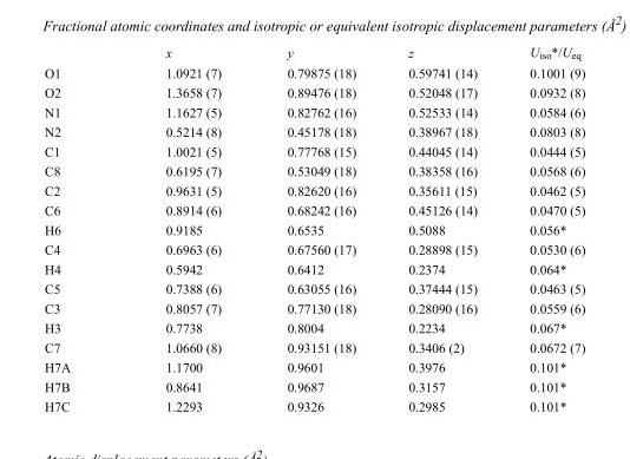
<table><thead><tr><td></td><td>x</td><td>y</td><td>z</td><td>U<sub>iso</sub>*/U<sub>eq</sub></td></tr></thead><tbody><tr><td>O1</td><td>1.0921 (7)</td><td>0.79875 (18)</td><td>0.59741 (14)</td><td>0.1001 (9)</td></tr><tr><td>O2</td><td>1.3658 (7)</td><td>0.89476 (18)</td><td>0.52048 (17)</td><td>0.0932 (8)</td></tr><tr><td>N1</td><td>1.1627 (5)</td><td>0.82762 (16)</td><td>0.52533 (14)</td><td>0.0584 (6)</td></tr><tr><td>N2</td><td>0.5214 (8)</td><td>0.45178 (18)</td><td>0.38967 (18)</td><td>0.0803 (8)</td></tr><tr><td>C1</td><td>1.0021 (5)</td><td>0.77768 (15)</td><td>0.44045 (14)</td><td>0.0444 (5)</td></tr><tr><td>C8</td><td>0.6195 (7)</td><td>0.53049 (18)</td><td>0.38358 (16)</td><td>0.0568 (6)</td></tr><tr><td>C2</td><td>0.9631 (5)</td><td>0.82620 (16)</td><td>0.35611 (15)</td><td>0.0462 (5)</td></tr><tr><td>C6</td><td>0.8914 (6)</td><td>0.68242 (16)</td><td>0.45126 (14)</td><td>0.0470 (5)</td></tr><tr><td>H6</td><td>0.9185</td><td>0.6535</td><td>0.5088</td><td>0.056*</td></tr><tr><td>C4</td><td>0.6963 (6)</td><td>0.67560 (17)</td><td>0.28898 (15)</td><td>0.0530 (6)</td></tr><tr><td>H4</td><td>0.5942</td><td>0.6412</td><td>0.2374</td><td>0.064*</td></tr><tr><td>C5</td><td>0.7388 (6)</td><td>0.63055 (16)</td><td>0.37444 (15)</td><td>0.0463 (5)</td></tr><tr><td>C3</td><td>0.8057 (7)</td><td>0.77130 (18)</td><td>0.28090 (16)</td><td>0.0559 (6)</td></tr><tr><td>H3</td><td>0.7738</td><td>0.8004</td><td>0.2234</td><td>0.067*</td></tr><tr><td>C7</td><td>1.0660 (8)</td><td>0.93151 (18)</td><td>0.3406 (2)</td><td>0.0672 (7)</td></tr><tr><td>H7A</td><td>1.1700</td><td>0.9601</td><td>0.3976</td><td>0.101*</td></tr><tr><td>H7B</td><td>0.8641</td><td>0.9687</td><td>0.3157</td><td>0.101*</td></tr><tr><td>H7C</td><td>1.2293</td><td>0.9326</td><td>0.2985</td><td>0.101*</td></tr></tbody></table>